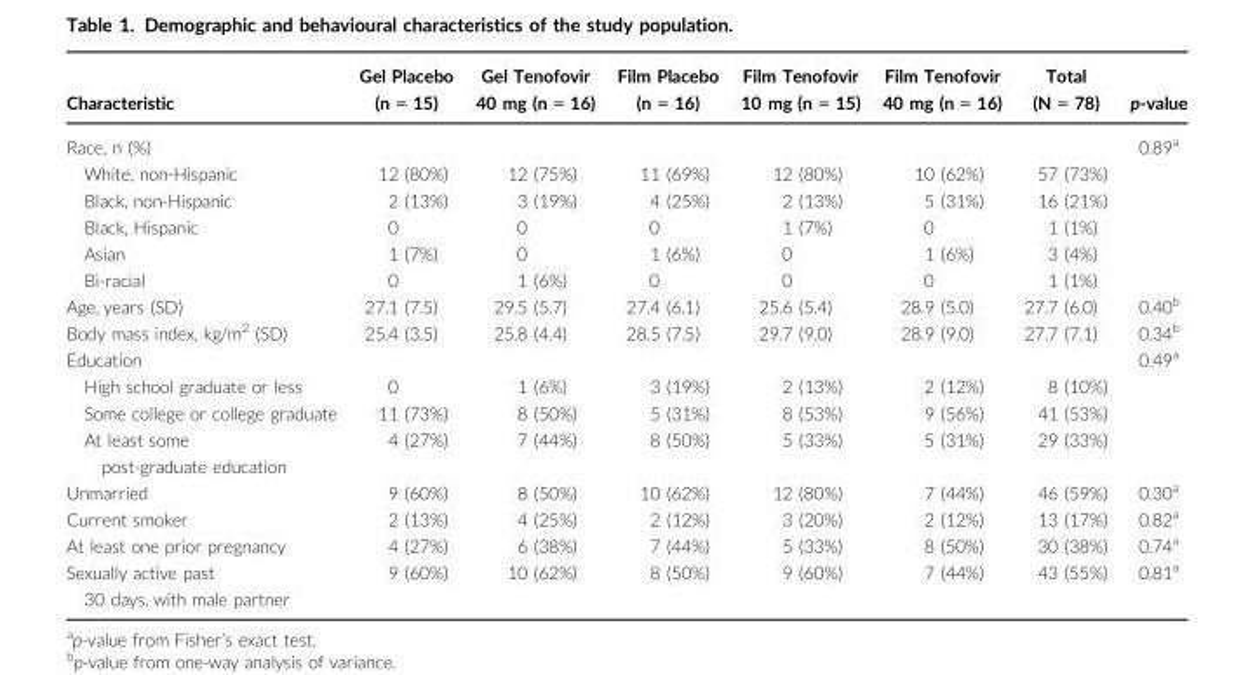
<table><thead><tr><td>Characteristic</td><td>Gel Placebo (n = 15)</td><td>Gel Tenofovir 40 mg (n = 16)</td><td>Film Placebo (n = 16)</td><td>Film Tenofovir 10 mg (n = 15)</td><td>Film Tenofovir 40 mg (n = 16)</td><td>Total (N = 78)</td><td>p-value</td></tr></thead><tbody><tr><td>Race, n (%)</td><td></td><td></td><td></td><td></td><td></td><td></td><td>0.89<sup>a</sup></td></tr><tr><td>White, non-Hispanic</td><td>12 (80%)</td><td>12 (75%)</td><td>11 (69%)</td><td>12 (80%)</td><td>10 (62%)</td><td>57 (73%)</td><td></td></tr><tr><td>Black, non-Hispanic</td><td>2 (13%)</td><td>3 (19%)</td><td>4 (25%)</td><td>2 (13%)</td><td>5 (31%)</td><td>16 (21%)</td><td></td></tr><tr><td>Black, Hispanic</td><td>0</td><td>0</td><td>0</td><td>1 (7%)</td><td>0</td><td>1 (1%)</td><td></td></tr><tr><td>Asian</td><td>1 (7%)</td><td>0</td><td>1 (6%)</td><td>0</td><td>1 (6%)</td><td>3 (4%)</td><td></td></tr><tr><td>Bi-racial</td><td>0</td><td>1 (6%)</td><td>0</td><td>0</td><td>0</td><td>1 (1%)</td><td></td></tr><tr><td>Age, years (SD)</td><td>27.1 (7.5)</td><td>29.5 (5.7)</td><td>27.4 (6.1)</td><td>25.6 (5.4)</td><td>28.9 (5.0)</td><td>27.7 (6.0)</td><td>0.40<sup>b</sup></td></tr><tr><td>Body mass index, kg/m<sup>2</sup> (SD)</td><td>25.4 (3.5)</td><td>25.8 (4.4)</td><td>28.5 (7.5)</td><td>29.7 (9.0)</td><td>28.9 (9.0)</td><td>27.7 (7.1)</td><td>0.34<sup>b</sup></td></tr><tr><td>Education</td><td></td><td></td><td></td><td></td><td></td><td></td><td>0.49<sup>a</sup></td></tr><tr><td>High school graduate or less</td><td>0</td><td>1 (6%)</td><td>3 (19%)</td><td>2 (13%)</td><td>2 (12%)</td><td>8 (10%)</td><td></td></tr><tr><td>Some college or college graduate</td><td>11 (73%)</td><td>8 (50%)</td><td>5 (31%)</td><td>8 (53%)</td><td>9 (56%)</td><td>41 (53%)</td><td></td></tr><tr><td>At least some post-graduate education</td><td>4 (27%)</td><td>7 (44%)</td><td>8 (50%)</td><td>5 (33%)</td><td>5 (31%)</td><td>29 (33%)</td><td></td></tr><tr><td>Unmarried</td><td>9 (60%)</td><td>8 (50%)</td><td>10 (62%)</td><td>12 (80%)</td><td>7 (44%)</td><td>46 (59%)</td><td>0.30<sup>a</sup></td></tr><tr><td>Current smoker</td><td>2 (13%)</td><td>4 (25%)</td><td>2 (12%)</td><td>3 (20%)</td><td>2 (12%)</td><td>13 (17%)</td><td>0.82<sup>a</sup></td></tr><tr><td>At least one prior pregnancy</td><td>4 (27%)</td><td>6 (38%)</td><td>7 (44%)</td><td>5 (33%)</td><td>8 (50%)</td><td>30 (38%)</td><td>0.74<sup>a</sup></td></tr><tr><td>Sexually active past 30 days, with male partner</td><td>9 (60%)</td><td>10 (62%)</td><td>8 (50%)</td><td>9 (60%)</td><td>7 (44%)</td><td>43 (55%)</td><td>0.81<sup>a</sup></td></tr></tbody></table>